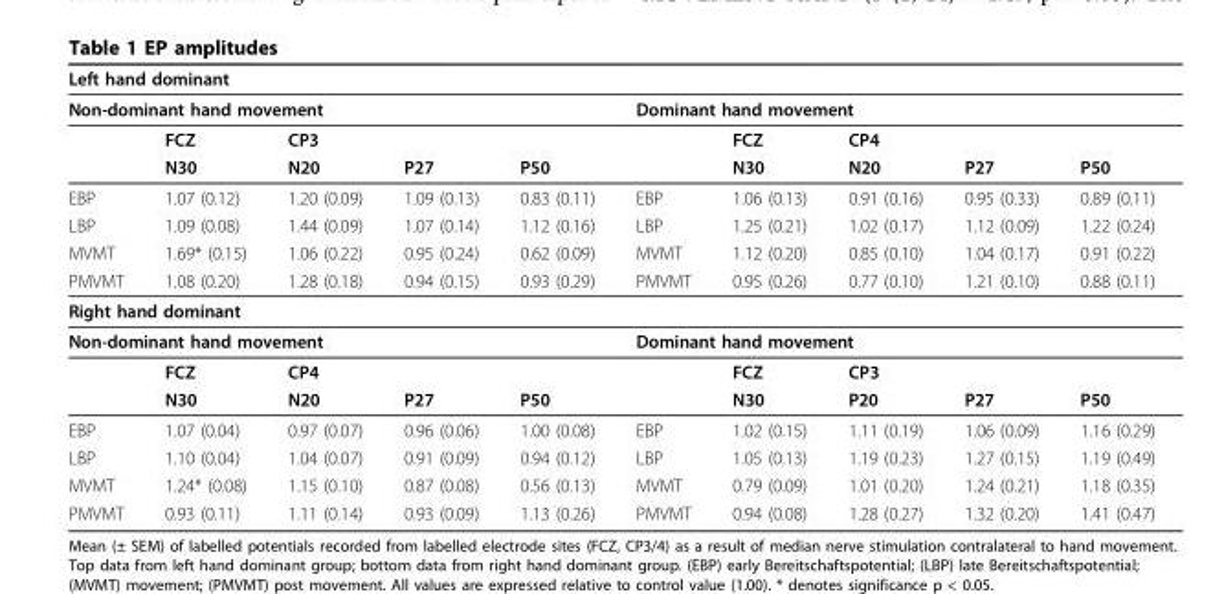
<table><thead><tr><td colspan="10">Left hand dominant</td></tr><tr><td colspan="5">Non-dominant hand movement</td><td colspan="5">Dominant hand movement</td></tr><tr><td></td><td>FCZ</td><td>CP3</td><td></td><td></td><td></td><td>FCZ</td><td>CP4</td><td></td><td></td></tr></thead><tbody><tr><td></td><td>N30</td><td>N20</td><td>P27</td><td>P50</td><td></td><td>N30</td><td>N20</td><td>P27</td><td>P50</td></tr><tr><td>EBP</td><td>1.07 (0.12)</td><td>1.20 (0.09)</td><td>1.09 (0.13)</td><td>0.83 (0.11)</td><td>EBP</td><td>1.06 (0.13)</td><td>0.91 (0.16)</td><td>0.95 (0.33)</td><td>0.89 (0.11)</td></tr><tr><td>LBP</td><td>1.09 (0.08)</td><td>1.44 (0.09)</td><td>1.07 (0.14)</td><td>1.12 (0.16)</td><td>LBP</td><td>1.25 (0.21)</td><td>1.02 (0.17)</td><td>1.12 (0.09)</td><td>1.22 (0.24)</td></tr><tr><td>MVMT</td><td>1.69* (0.15)</td><td>1.06 (0.22)</td><td>0.95 (0.24)</td><td>0.62 (0.09)</td><td>MVMT</td><td>1.12 (0.20)</td><td>0.85 (0.10)</td><td>1.04 (0.17)</td><td>0.91 (0.22)</td></tr><tr><td>PMVMT</td><td>1.08 (0.20)</td><td>1.28 (0.18)</td><td>0.94 (0.15)</td><td>0.93 (0.29)</td><td>PMVMT</td><td>0.95 (0.26)</td><td>0.77 (0.10)</td><td>1.21 (0.10)</td><td>0.88 (0.11)</td></tr><tr><td colspan="10">Right hand dominant</td></tr><tr><td colspan="5">Non-dominant hand movement</td><td colspan="5">Dominant hand movement</td></tr><tr><td></td><td>FCZ</td><td>CP4</td><td></td><td></td><td></td><td>FCZ</td><td>CP3</td><td></td><td></td></tr><tr><td></td><td>N30</td><td>N20</td><td>P27</td><td>P50</td><td></td><td>N30</td><td>P20</td><td>P27</td><td>P50</td></tr><tr><td>EBP</td><td>1.07 (0.04)</td><td>0.97 (0.07)</td><td>0.96 (0.06)</td><td>1.00 (0.08)</td><td>EBP</td><td>1.02 (0.15)</td><td>1.11 (0.19)</td><td>1.06 (0.09)</td><td>1.16 (0.29)</td></tr><tr><td>LBP</td><td>1.10 (0.04)</td><td>1.04 (0.07)</td><td>0.91 (0.09)</td><td>0.94 (0.12)</td><td>LBP</td><td>1.05 (0.13)</td><td>1.19 (0.23)</td><td>1.27 (0.15)</td><td>1.19 (0.49)</td></tr><tr><td>MVMT</td><td>1.24* (0.08)</td><td>1.15 (0.10)</td><td>0.87 (0.08)</td><td>0.56 (0.13)</td><td>MVMT</td><td>0.79 (0.09)</td><td>1.01 (0.20)</td><td>1.24 (0.21)</td><td>1.18 (0.35)</td></tr><tr><td>PMVMT</td><td>0.93 (0.11)</td><td>1.11 (0.14)</td><td>0.93 (0.09)</td><td>1.13 (0.26)</td><td>PMVMT</td><td>0.94 (0.08)</td><td>1.28 (0.27)</td><td>1.32 (0.20)</td><td>1.41 (0.47)</td></tr></tbody></table>